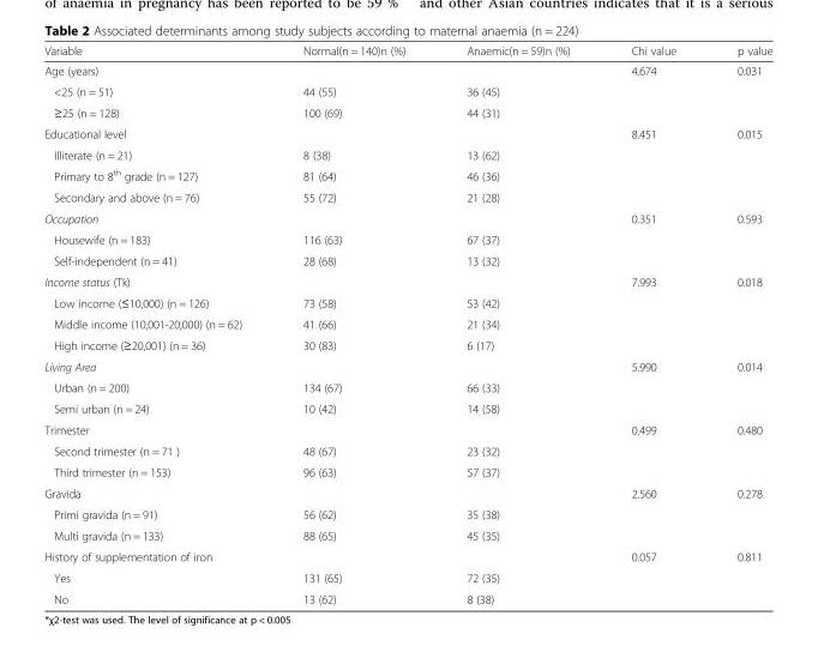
<table><thead><tr><td>Variable</td><td>Normal(n = 140)n (%)</td><td>Anaemic(n = 59)n (%)</td><td>Chi value</td><td>p value</td></tr></thead><tbody><tr><td colspan="3">Age (years)</td><td rowspan="3">4.674</td><td rowspan="3">0.031</td></tr><tr><td>&lt;25 (n = 51)</td><td>44 (55)</td><td>36 (45)</td></tr><tr><td>≥25 (n = 128)</td><td>100 (69)</td><td>44 (31)</td></tr><tr><td colspan="3">Educational level</td><td rowspan="4">8.451</td><td rowspan="4">0.015</td></tr><tr><td>Illiterate (n = 21)</td><td>8 (38)</td><td>13 (62)</td></tr><tr><td>Primary to 8<sup>th</sup> grade (n = 127)</td><td>81 (64)</td><td>46 (36)</td></tr><tr><td>Secondary and above (n = 76)</td><td>55 (72)</td><td>21 (28)</td></tr><tr><td colspan="3">Occupation</td><td rowspan="3">0.351</td><td rowspan="3">0.593</td></tr><tr><td>Housewife (n = 183)</td><td>116 (63)</td><td>67 (37)</td></tr><tr><td>Self-independent (n = 41)</td><td>28 (68)</td><td>13 (32)</td></tr><tr><td colspan="3">Income status (Tk)</td><td rowspan="4">7.993</td><td rowspan="4">0.018</td></tr><tr><td>Low income (≤10,000) (n = 126)</td><td>73 (58)</td><td>53 (42)</td></tr><tr><td>Middle income (10,001-20,000) (n = 62)</td><td>41 (66)</td><td>21 (34)</td></tr><tr><td>High income (≥20,001) (n = 36)</td><td>30 (83)</td><td>6 (17)</td></tr><tr><td colspan="3">Living Area</td><td rowspan="3">5.990</td><td rowspan="3">0.014</td></tr><tr><td>Urban (n = 200)</td><td>134 (67)</td><td>66 (33)</td></tr><tr><td>Semi urban (n = 24)</td><td>10 (42)</td><td>14 (58)</td></tr><tr><td colspan="3">Trimester</td><td rowspan="3">0.499</td><td rowspan="3">0.480</td></tr><tr><td>Second trimester (n = 71 )</td><td>48 (67)</td><td>23 (32)</td></tr><tr><td>Third trimester (n = 153)</td><td>96 (63)</td><td>57 (37)</td></tr><tr><td colspan="3">Gravida</td><td rowspan="3">2.560</td><td rowspan="3">0.278</td></tr><tr><td>Primi gravida (n = 91)</td><td>56 (62)</td><td>35 (38)</td></tr><tr><td>Multi gravida (n = 133)</td><td>88 (65)</td><td>45 (35)</td></tr><tr><td colspan="3">History of supplementation of iron</td><td rowspan="3">0.057</td><td rowspan="3">0.811</td></tr><tr><td>Yes</td><td>131 (65)</td><td>72 (35)</td></tr><tr><td>No</td><td>13 (62)</td><td>8 (38)</td></tr></tbody></table>